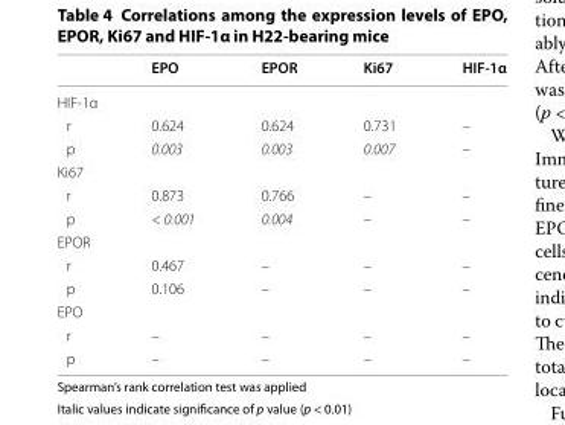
<table><thead><tr><td></td><td>EPO</td><td>EPOR</td><td>Ki67</td><td>HIF‑1α</td></tr></thead><tbody><tr><td colspan="5">HIF‑1α</td></tr><tr><td>r</td><td>0.624</td><td>0.624</td><td>0.731</td><td>–</td></tr><tr><td>p</td><td>0.003</td><td>0.003</td><td>0.007</td><td>–</td></tr><tr><td colspan="5">Ki67</td></tr><tr><td>r</td><td>0.873</td><td>0.766</td><td>–</td><td>–</td></tr><tr><td>p</td><td>&lt; 0.001</td><td>0.004</td><td>–</td><td>–</td></tr><tr><td colspan="5">EPOR</td></tr><tr><td>r</td><td>0.467</td><td>–</td><td>–</td><td>–</td></tr><tr><td>p</td><td>0.106</td><td>–</td><td>–</td><td>–</td></tr><tr><td colspan="5">EPO</td></tr><tr><td>r</td><td>–</td><td>–</td><td>–</td><td>–</td></tr><tr><td>p</td><td>–</td><td>–</td><td>–</td><td>–</td></tr></tbody></table>